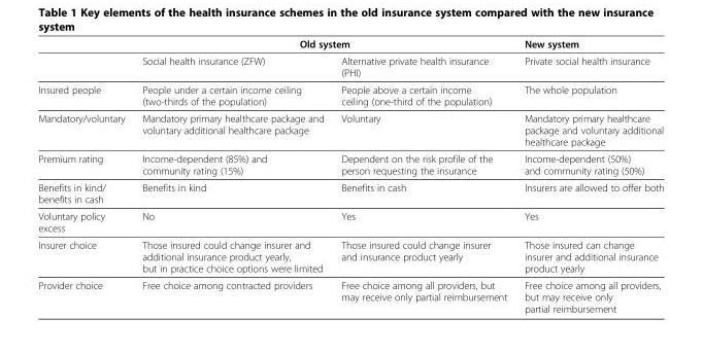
<table><thead><tr><td rowspan="2"></td><td colspan="2">Old system</td><td rowspan="2">New system Private social health insurance</td></tr><tr><td>Social health insurance (ZFW)</td><td>Alternative private health insurance (PHI)</td></tr></thead><tbody><tr><td>Insured people</td><td>People under a certain income ceiling (two-thirds of the population)</td><td>People above a certain income ceiling (one-third of the population)</td><td>The whole population</td></tr><tr><td>Mandatory/voluntary</td><td>Mandatory primary healthcare package and voluntary additional healthcare package</td><td>Voluntary</td><td>Mandatory primary healthcare package and voluntary additional healthcare package</td></tr><tr><td>Premium rating</td><td>Income-dependent (85%) and community rating (15%)</td><td>Dependent on the risk profile of the person requesting the insurance</td><td>Income-dependent (50%) and community rating (50%)</td></tr><tr><td>Benefits in kind/ benefits in cash</td><td>Benefits in kind</td><td>Benefits in cash</td><td>Insurers are allowed to offer both</td></tr><tr><td>Voluntary policy excess</td><td>No</td><td>Yes</td><td>Yes</td></tr><tr><td>Insurer choice</td><td>Those insured could change insurer and additional insurance product yearly, but in practice choice options were limited</td><td>Those insured could change insurer and insurance product yearly</td><td>Those insured can change insurer and additional insurance product yearly</td></tr><tr><td>Provider choice</td><td>Free choice among contracted providers</td><td>Free choice among all providers, but may receive only partial reimbursement</td><td>Free choice among all providers, but may receive only partial reimbursement</td></tr></tbody></table>